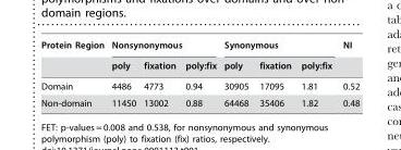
<table><thead><tr><td rowspan="2">Protein Region</td><td colspan="3">Nonsynonymous</td><td colspan="3">Synonymous</td><td rowspan="2">NI</td></tr><tr><td>poly</td><td>fixation</td><td>poly:fix</td><td>poly</td><td>fixation</td><td>poly:fix</td></tr></thead><tbody><tr><td>Domain</td><td>4486</td><td>4773</td><td>0.94</td><td>30905</td><td>17095</td><td>1.81</td><td>0.52</td></tr><tr><td>Non-domain</td><td>11450</td><td>13002</td><td>0.88</td><td>64468</td><td>35406</td><td>1.82</td><td>0.48</td></tr></tbody></table>